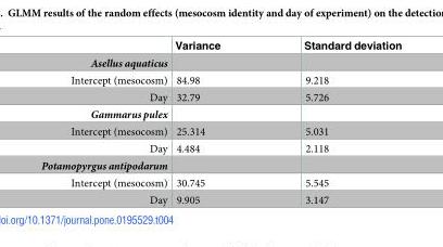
<table><thead><tr><td></td><td>Variance</td><td>Standard deviation</td></tr></thead><tbody><tr><td colspan="3">Asellus aquaticus</td></tr><tr><td>Intercept (mesocosm)</td><td>84.98</td><td>9.218</td></tr><tr><td>Day</td><td>32.79</td><td>5.726</td></tr><tr><td colspan="3">Gammarus pulex</td></tr><tr><td>Intercept (mesocosm)</td><td>25.314</td><td>5.031</td></tr><tr><td>Day</td><td>4.484</td><td>2.118</td></tr><tr><td colspan="3">Potamopyrgus antipodarum</td></tr><tr><td>Intercept (mesocosm)</td><td>30.745</td><td>5.545</td></tr><tr><td>Day</td><td>9.905</td><td>3.147</td></tr></tbody></table>